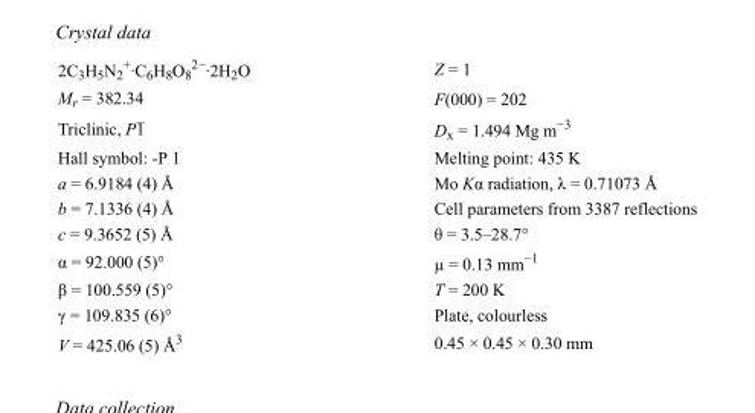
<table><tbody><tr><td>2C<sub>3</sub>H<sub>5</sub>N<sub>2</sub> <sup>+</sup>·C<sub>6</sub>H<sub>8</sub>O<sub>8</sub> <sup>2−</sup>·2H<sub>2</sub>O</td><td>Z = 1</td></tr><tr><td>M<sub>r</sub> = 382.34</td><td>F(000) = 202</td></tr><tr><td>Triclinic, P1</td><td>D<sub>x</sub> = 1.494 Mg m<sup>−3</sup></td></tr><tr><td>Hall symbol: -P 1</td><td>Melting point: 435 K</td></tr><tr><td>a = 6.9184 (4) Å</td><td>Mo Kα radiation, λ = 0.71073 Å</td></tr><tr><td>b = 7.1336 (4) Å</td><td>Cell parameters from 3387 reflections</td></tr><tr><td>c = 9.3652 (5) Å</td><td>θ = 3.5–28.7°</td></tr><tr><td>α = 92.000 (5)°</td><td>µ = 0.13 mm<sup>−1</sup></td></tr><tr><td>β = 100.559 (5)°</td><td>T = 200 K</td></tr><tr><td>γ = 109.835 (6)°</td><td>Plate, colourless</td></tr><tr><td>V = 425.06 (5) Å<sup>3</sup></td><td>0.45 × 0.45 × 0.30 mm</td></tr></tbody></table>